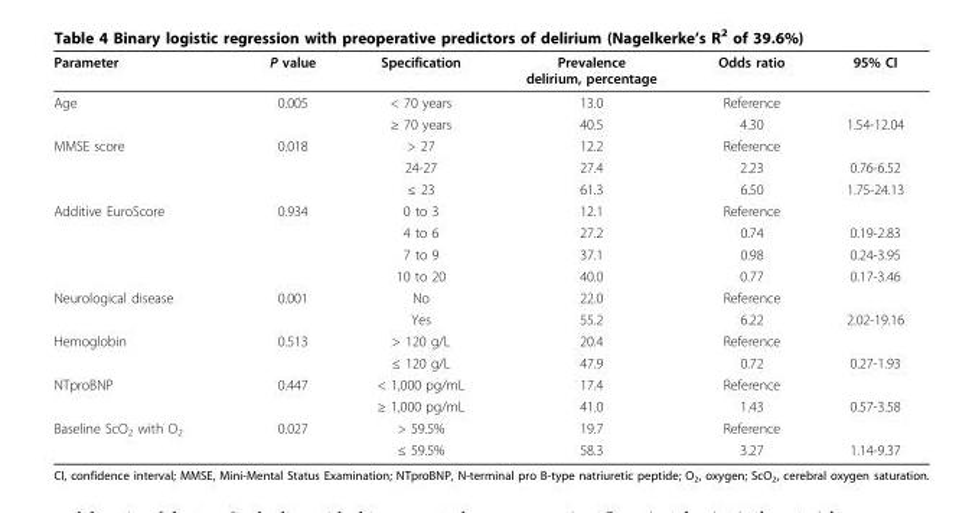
<table><thead><tr><td>Parameter</td><td>P value</td><td>Specification</td><td>Prevalence delirium, percentage</td><td>Odds ratio</td><td>95% CI</td></tr></thead><tbody><tr><td rowspan="2">Age</td><td>0.005</td><td>&lt; 70 years</td><td>13.0</td><td>Reference</td><td></td></tr><tr><td></td><td>≥ 70 years</td><td>40.5</td><td>4.30</td><td>1.54-12.04</td></tr><tr><td rowspan="3">MMSE score</td><td>0.018</td><td>&gt; 27</td><td>12.2</td><td>Reference</td><td></td></tr><tr><td></td><td>24-27</td><td>27.4</td><td>2.23</td><td>0.76-6.52</td></tr><tr><td></td><td>≤ 23</td><td>61.3</td><td>6.50</td><td>1.75-24.13</td></tr><tr><td rowspan="4">Additive EuroScore</td><td>0.934</td><td>0 to 3</td><td>12.1</td><td>Reference</td><td></td></tr><tr><td></td><td>4 to 6</td><td>27.2</td><td>0.74</td><td>0.19-2.83</td></tr><tr><td></td><td>7 to 9</td><td>37.1</td><td>0.98</td><td>0.24-3.95</td></tr><tr><td></td><td>10 to 20</td><td>40.0</td><td>0.77</td><td>0.17-3.46</td></tr><tr><td rowspan="2">Neurological disease</td><td>0.001</td><td>No</td><td>22.0</td><td>Reference</td><td></td></tr><tr><td></td><td>Yes</td><td>55.2</td><td>6.22</td><td>2.02-19.16</td></tr><tr><td rowspan="2">Hemoglobin</td><td>0.513</td><td>&gt; 120 g/L</td><td>20.4</td><td>Reference</td><td></td></tr><tr><td></td><td>≤ 120 g/L</td><td>47.9</td><td>0.72</td><td>0.27-1.93</td></tr><tr><td rowspan="2">NTproBNP</td><td>0.447</td><td>&lt; 1,000 pg/mL</td><td>17.4</td><td>Reference</td><td></td></tr><tr><td></td><td>≥ 1,000 pg/mL</td><td>41.0</td><td>1.43</td><td>0.57-3.58</td></tr><tr><td rowspan="2">Baseline ScO<sub>2</sub> with O<sub>2</sub></td><td>0.027</td><td>&gt; 59.5%</td><td>19.7</td><td>Reference</td><td></td></tr><tr><td></td><td>≤ 59.5%</td><td>58.3</td><td>3.27</td><td>1.14-9.37</td></tr></tbody></table>